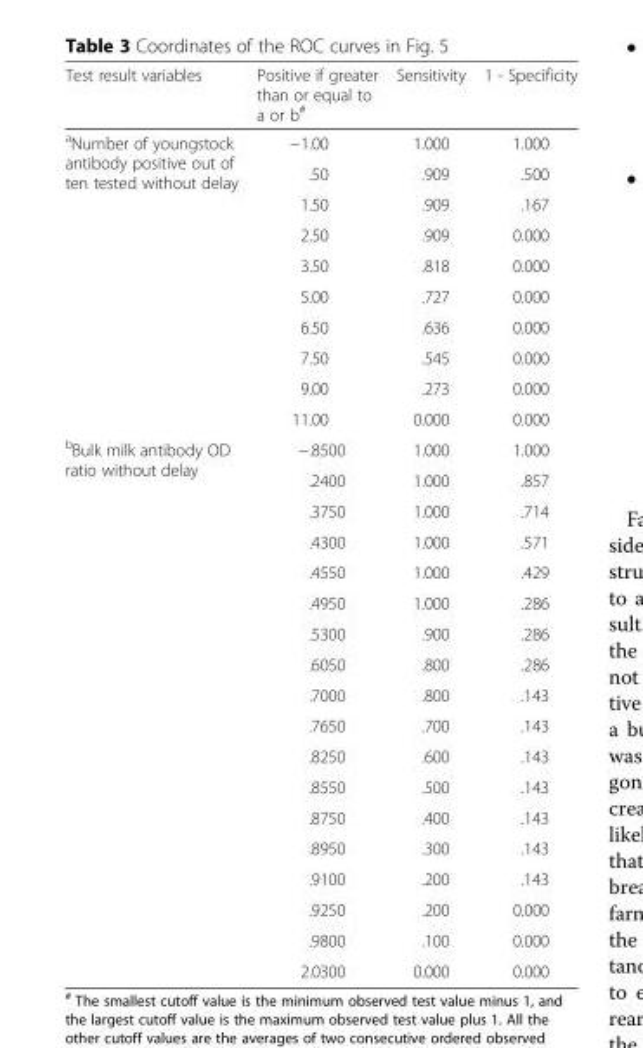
<table><thead><tr><td>Test result variables</td><td>Positive if greater than or equal to a or b<sup>#</sup></td><td>Sensitivity</td><td>1 - Specificity</td></tr></thead><tbody><tr><td rowspan="10"><sup>a</sup>Number of youngstock antibody positive out of ten tested without delay</td><td>−1.00</td><td>1.000</td><td>1.000</td></tr><tr><td>.50</td><td>.909</td><td>.500</td></tr><tr><td>1.50</td><td>.909</td><td>.167</td></tr><tr><td>2.50</td><td>.909</td><td>0.000</td></tr><tr><td>3.50</td><td>.818</td><td>0.000</td></tr><tr><td>5.00</td><td>.727</td><td>0.000</td></tr><tr><td>6.50</td><td>.636</td><td>0.000</td></tr><tr><td>7.50</td><td>.545</td><td>0.000</td></tr><tr><td>9.00</td><td>.273</td><td>0.000</td></tr><tr><td>11.00</td><td>0.000</td><td>0.000</td></tr><tr><td rowspan="18"><sup>b</sup>Bulk milk antibody OD ratio without delay</td><td>−.8500</td><td>1.000</td><td>1.000</td></tr><tr><td>.2400</td><td>1.000</td><td>.857</td></tr><tr><td>.3750</td><td>1.000</td><td>.714</td></tr><tr><td>.4300</td><td>1.000</td><td>.571</td></tr><tr><td>.4550</td><td>1.000</td><td>.429</td></tr><tr><td>.4950</td><td>1.000</td><td>.286</td></tr><tr><td>.5300</td><td>.900</td><td>.286</td></tr><tr><td>.6050</td><td>.800</td><td>.286</td></tr><tr><td>.7000</td><td>.800</td><td>.143</td></tr><tr><td>.7650</td><td>.700</td><td>.143</td></tr><tr><td>.8250</td><td>.600</td><td>.143</td></tr><tr><td>.8550</td><td>.500</td><td>.143</td></tr><tr><td>.8750</td><td>.400</td><td>.143</td></tr><tr><td>.8950</td><td>.300</td><td>.143</td></tr><tr><td>.9100</td><td>.200</td><td>.143</td></tr><tr><td>.9250</td><td>.200</td><td>0.000</td></tr><tr><td>.9800</td><td>.100</td><td>0.000</td></tr><tr><td>2.0300</td><td>0.000</td><td>0.000</td></tr></tbody></table>